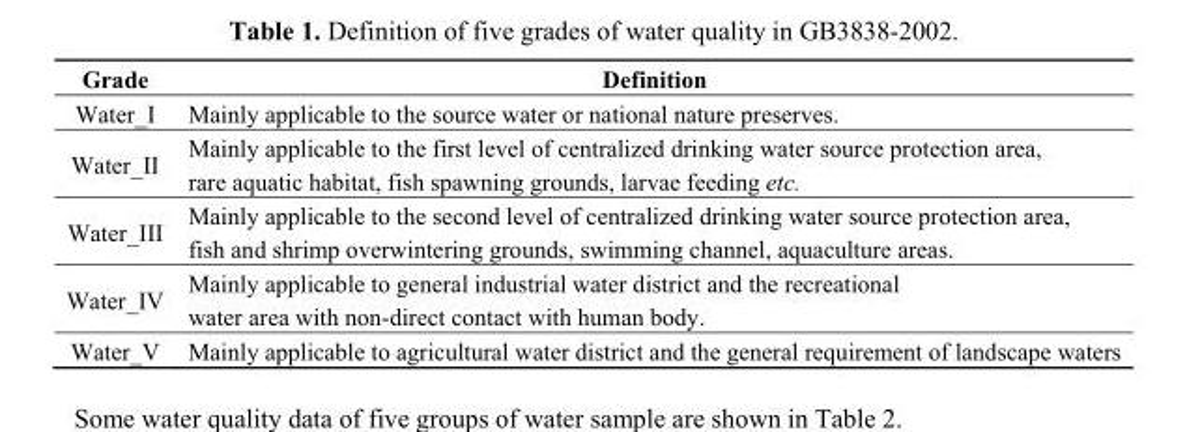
<table><thead><tr><td>Grade</td><td>Definition</td></tr></thead><tbody><tr><td>Water_I</td><td>Mainly applicable to the source water or national nature preserves.</td></tr><tr><td>Water_II</td><td>Mainly applicable to the first level of centralized drinking water source protection area, rare aquatic habitat, fish spawning grounds, larvae feeding etc.</td></tr><tr><td>Water_III</td><td>Mainly applicable to the second level of centralized drinking water source protection area, fish and shrimp overwintering grounds, swimming channel, aquaculture areas.</td></tr><tr><td>Water_IV</td><td>Mainly applicable to general industrial water district and the recreational water area with non-direct contact with human body.</td></tr><tr><td>Water_V</td><td>Mainly applicable to agricultural water district and the general requirement of landscape waters</td></tr></tbody></table>